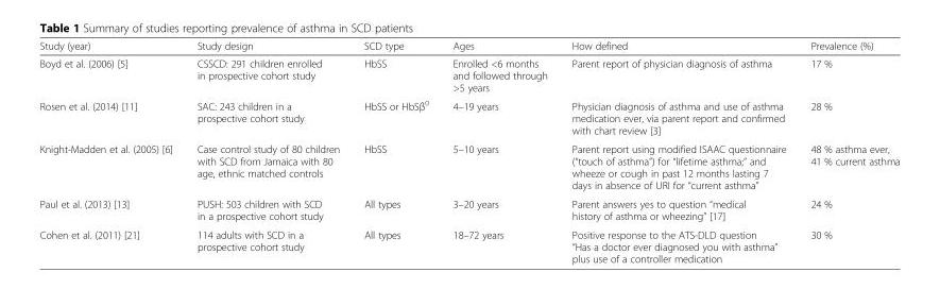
<table><thead><tr><td>Study (year)</td><td>Study design</td><td>SCD type</td><td>Ages</td><td>How defined</td><td>Prevalence (%)</td></tr></thead><tbody><tr><td>Boyd et al. (2006) [5]</td><td>CSSCD: 291 children enrolled in prospective cohort study</td><td>HbSS</td><td>Enrolled &lt;6 months and followed through &gt;5 years</td><td>Parent report of physician diagnosis of asthma</td><td>17 %</td></tr><tr><td>Rosen et al. (2014) [11]</td><td>SAC: 243 children in a prospective cohort study</td><td>HbSS or HbSβ<sup>0</sup></td><td>4–19 years</td><td>Physician diagnosis of asthma and use of asthma medication ever, via parent report and confirmed with chart review [3]</td><td>28 %</td></tr><tr><td>Knight-Madden et al. (2005) [6]</td><td>Case control study of 80 children with SCD from Jamaica with 80 age, ethnic matched controls</td><td>HbSS</td><td>5–10 years</td><td>Parent report using modified ISAAC questionnaire (“touch of asthma”) for “lifetime asthma;” and wheeze or cough in past 12 months lasting 7 days in absence of URI for “current asthma”</td><td>48 % asthma ever, 41 % current asthma</td></tr><tr><td>Paul et al. (2013) [13]</td><td>PUSH: 503 children with SCD in a prospective cohort study</td><td>All types</td><td>3–20 years</td><td>Parent answers yes to question “medical history of asthma or wheezing” [17]</td><td>24 %</td></tr><tr><td>Cohen et al. (2011) [21]</td><td>114 adults with SCD in a prospective cohort study</td><td>All types</td><td>18–72 years</td><td>Positive response to the ATS-DLD question “Has a doctor ever diagnosed you with asthma” plus use of a controller medication</td><td>30 %</td></tr></tbody></table>